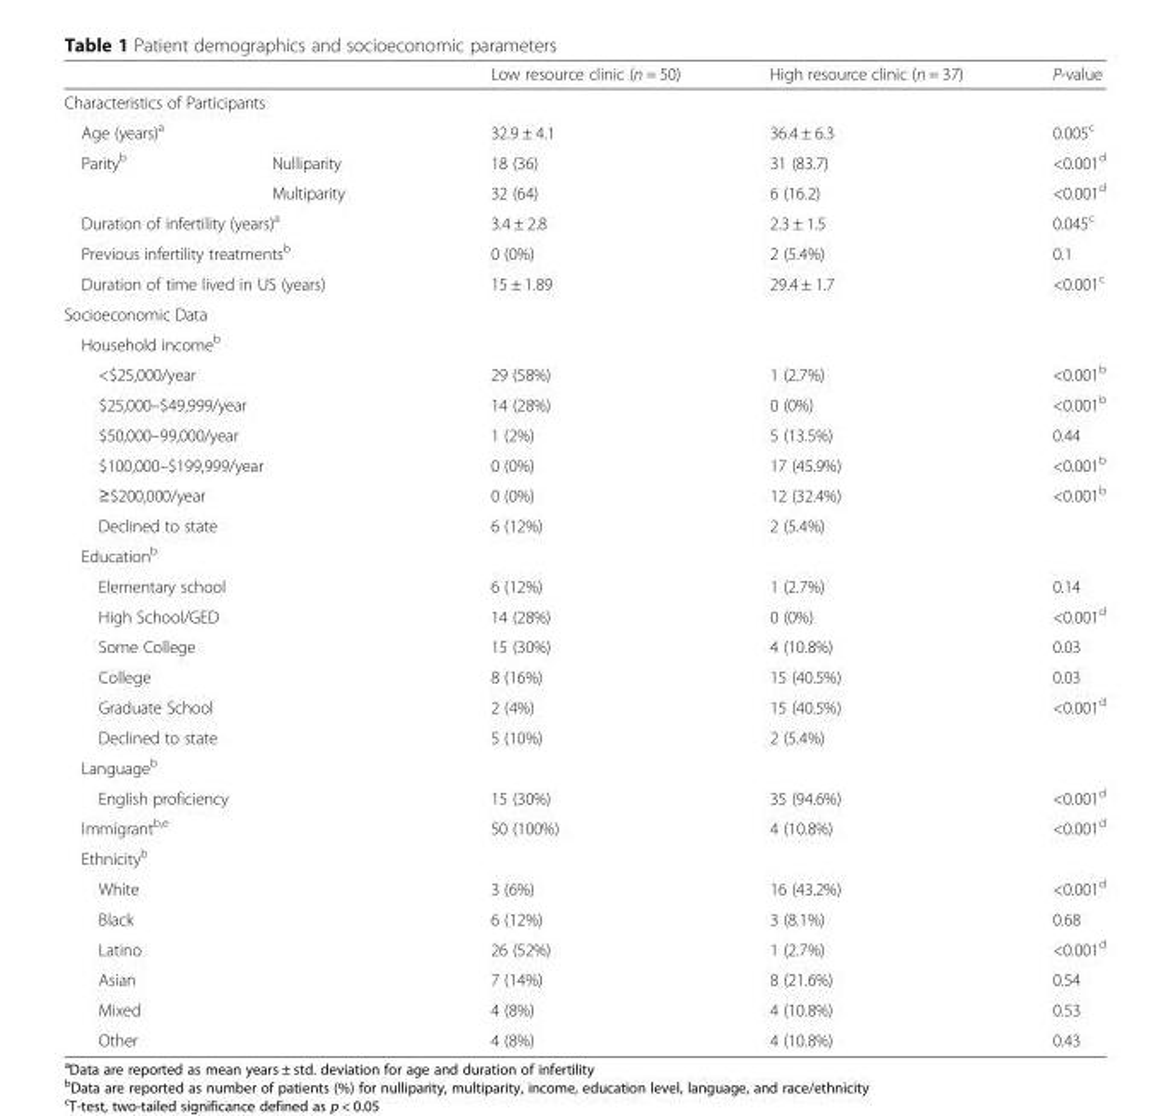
<table><thead><tr><td></td><td></td><td>Low resource clinic (n = 50)</td><td>High resource clinic (n = 37)</td><td>P-value</td></tr></thead><tbody><tr><td colspan="5">Characteristics of Participants</td></tr><tr><td colspan="2">Age (years)<sup>a</sup></td><td>32.9 ± 4.1</td><td>36.4 ± 6.3</td><td>0.005<sup>c</sup></td></tr><tr><td rowspan="2">Parity<sup>b</sup></td><td>Nulliparity</td><td>18 (36)</td><td>31 (83.7)</td><td>&lt;0.001<sup>d</sup></td></tr><tr><td>Multiparity</td><td>32 (64)</td><td>6 (16.2)</td><td>&lt;0.001<sup>d</sup></td></tr><tr><td colspan="2">Duration of infertility (years)<sup>a</sup></td><td>3.4 ± 2.8</td><td>2.3 ± 1.5</td><td>0.045<sup>c</sup></td></tr><tr><td colspan="2">Previous infertility treatments<sup>b</sup></td><td>0 (0%)</td><td>2 (5.4%)</td><td>0.1</td></tr><tr><td colspan="2">Duration of time lived in US (years)</td><td>15 ± 1.89</td><td>29.4 ± 1.7</td><td>&lt;0.001<sup>c</sup></td></tr><tr><td colspan="5">Socioeconomic Data</td></tr><tr><td colspan="5">Household income<sup>b</sup></td></tr><tr><td colspan="2">&lt;$25,000/year</td><td>29 (58%)</td><td>1 (2.7%)</td><td>&lt;0.001<sup>b</sup></td></tr><tr><td colspan="2">$25,000–$49,999/year</td><td>14 (28%)</td><td>0 (0%)</td><td>&lt;0.001<sup>b</sup></td></tr><tr><td colspan="2">$50,000–99,000/year</td><td>1 (2%)</td><td>5 (13.5%)</td><td>0.44</td></tr><tr><td colspan="2">$100,000–$199,999/year</td><td>0 (0%)</td><td>17 (45.9%)</td><td>&lt;0.001<sup>b</sup></td></tr><tr><td colspan="2">≥$200,000/year</td><td>0 (0%)</td><td>12 (32.4%)</td><td>&lt;0.001<sup>b</sup></td></tr><tr><td colspan="2">Declined to state</td><td>6 (12%)</td><td>2 (5.4%)</td><td></td></tr><tr><td colspan="5">Education<sup>b</sup></td></tr><tr><td colspan="2">Elementary school</td><td>6 (12%)</td><td>1 (2.7%)</td><td>0.14</td></tr><tr><td colspan="2">High School/GED</td><td>14 (28%)</td><td>0 (0%)</td><td>&lt;0.001<sup>d</sup></td></tr><tr><td colspan="2">Some College</td><td>15 (30%)</td><td>4 (10.8%)</td><td>0.03</td></tr><tr><td colspan="2">College</td><td>8 (16%)</td><td>15 (40.5%)</td><td>0.03</td></tr><tr><td colspan="2">Graduate School</td><td>2 (4%)</td><td>15 (40.5%)</td><td>&lt;0.001<sup>d</sup></td></tr><tr><td colspan="2">Declined to state</td><td>5 (10%)</td><td>2 (5.4%)</td><td></td></tr><tr><td colspan="5">Language<sup>b</sup></td></tr><tr><td colspan="2">English proficiency</td><td>15 (30%)</td><td>35 (94.6%)</td><td>&lt;0.001<sup>d</sup></td></tr><tr><td colspan="2">Immigrant<sup>b,e</sup></td><td>50 (100%)</td><td>4 (10.8%)</td><td>&lt;0.001<sup>d</sup></td></tr><tr><td colspan="5">Ethnicity<sup>b</sup></td></tr><tr><td colspan="2">White</td><td>3 (6%)</td><td>16 (43.2%)</td><td>&lt;0.001<sup>d</sup></td></tr><tr><td colspan="2">Black</td><td>6 (12%)</td><td>3 (8.1%)</td><td>0.68</td></tr><tr><td colspan="2">Latino</td><td>26 (52%)</td><td>1 (2.7%)</td><td>&lt;0.001<sup>d</sup></td></tr><tr><td colspan="2">Asian</td><td>7 (14%)</td><td>8 (21.6%)</td><td>0.54</td></tr><tr><td colspan="2">Mixed</td><td>4 (8%)</td><td>4 (10.8%)</td><td>0.53</td></tr><tr><td colspan="2">Other</td><td>4 (8%)</td><td>4 (10.8%)</td><td>0.43</td></tr></tbody></table>